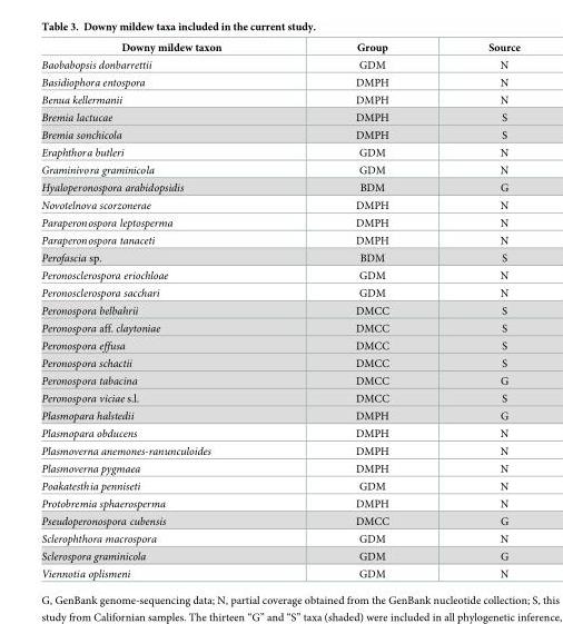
<table><thead><tr><td>Downy mildew taxon</td><td>Group</td><td>Source</td></tr></thead><tbody><tr><td>Baobabopsis donbarrettii</td><td>GDM</td><td>N</td></tr><tr><td>Basidiophora entospora</td><td>DMPH</td><td>N</td></tr><tr><td>Benua kellermanii</td><td>DMPH</td><td>N</td></tr><tr><td>Bremia lactucae</td><td>DMPH</td><td>S</td></tr><tr><td>Bremia sonchicola</td><td>DMPH</td><td>S</td></tr><tr><td>Eraphthora butleri</td><td>GDM</td><td>N</td></tr><tr><td>Graminivora graminicola</td><td>GDM</td><td>N</td></tr><tr><td>Hyaloperonospora arabidopsidis</td><td>BDM</td><td>G</td></tr><tr><td>Novotelnova scorzonerae</td><td>DMPH</td><td>N</td></tr><tr><td>Paraperonospora leptosperma</td><td>DMPH</td><td>N</td></tr><tr><td>Paraperonospora tanaceti</td><td>DMPH</td><td>N</td></tr><tr><td>Perofascia sp.</td><td>BDM</td><td>S</td></tr><tr><td>Peronosclerospora eriochloae</td><td>GDM</td><td>N</td></tr><tr><td>Peronosclerospora sacchari</td><td>GDM</td><td>N</td></tr><tr><td>Peronospora belbahrii</td><td>DMCC</td><td>S</td></tr><tr><td>Peronospora aff. claytoniae</td><td>DMCC</td><td>S</td></tr><tr><td>Peronospora effusa</td><td>DMCC</td><td>S</td></tr><tr><td>Peronospora schactii</td><td>DMCC</td><td>S</td></tr><tr><td>Peronospora tabacina</td><td>DMCC</td><td>G</td></tr><tr><td>Peronospora viciae s.l.</td><td>DMCC</td><td>S</td></tr><tr><td>Plasmopara halstedii</td><td>DMPH</td><td>G</td></tr><tr><td>Plasmopara obducens</td><td>DMPH</td><td>N</td></tr><tr><td>Plasmoverna anemones-ranunculoides</td><td>DMPH</td><td>N</td></tr><tr><td>Plasmoverna pygmaea</td><td>DMPH</td><td>N</td></tr><tr><td>Poakatesthia penniseti</td><td>GDM</td><td>N</td></tr><tr><td>Protobremia sphaerosperma</td><td>DMPH</td><td>N</td></tr><tr><td>Pseudoperonospora cubensis</td><td>DMCC</td><td>G</td></tr><tr><td>Sclerophthora macrospora</td><td>GDM</td><td>N</td></tr><tr><td>Sclerospora graminicola</td><td>GDM</td><td>G</td></tr><tr><td>Viennotia oplismeni</td><td>GDM</td><td>N</td></tr></tbody></table>